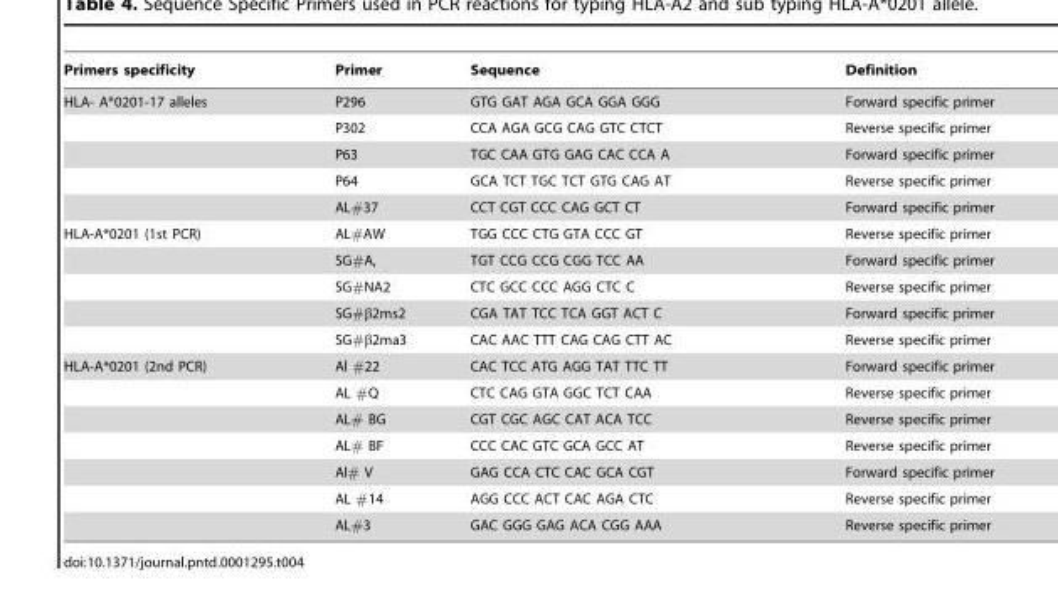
<table><thead><tr><td>Primers specificity</td><td>Primer</td><td>Sequence</td><td>Definition</td></tr></thead><tbody><tr><td rowspan="5">HLA- A*0201-17 alleles</td><td>P296</td><td>GTG GAT AGA GCA GGA GGG</td><td>Forward specific primer</td></tr><tr><td>P302</td><td>CCA AGA GCG CAG GTC CTCT</td><td>Reverse specific primer</td></tr><tr><td>P63</td><td>TGC CAA GTG GAG CAC CCA A</td><td>Forward specific primer</td></tr><tr><td>P64</td><td>GCA TCT TGC TCT GTG CAG AT</td><td>Reverse specific primer</td></tr><tr><td>AL#37</td><td>CCT CGT CCC CAG GCT CT</td><td>Forward specific primer</td></tr><tr><td rowspan="5">HLA-A*0201 (1st PCR)</td><td>AL#AW</td><td>TGG CCC CTG GTA CCC GT</td><td>Reverse specific primer</td></tr><tr><td>SG#A,</td><td>TGT CCG CCG CGG TCC AA</td><td>Forward specific primer</td></tr><tr><td>SG#NA2</td><td>CTC GCC CCC AGG CTC C</td><td>Reverse specific primer</td></tr><tr><td>SG#β2ms2</td><td>CGA TAT TCC TCA GGT ACT C</td><td>Forward specific primer</td></tr><tr><td>SG#β2ma3</td><td>CAC AAC TTT CAG CAG CTT AC</td><td>Reverse specific primer</td></tr><tr><td rowspan="7">HLA-A*0201 (2nd PCR)</td><td>Al #22</td><td>CAC TCC ATG AGG TAT TTC TT</td><td>Forward specific primer</td></tr><tr><td>AL #Q</td><td>CTC CAG GTA GGC TCT CAA</td><td>Reverse specific primer</td></tr><tr><td>AL# BG</td><td>CGT CGC AGC CAT ACA TCC</td><td>Reverse specific primer</td></tr><tr><td>AL# BF</td><td>CCC CAC GTC GCA GCC AT</td><td>Reverse specific primer</td></tr><tr><td>Al# V</td><td>GAG CCA CTC CAC GCA CGT</td><td>Forward specific primer</td></tr><tr><td>AL #14</td><td>AGG CCC ACT CAC AGA CTC</td><td>Reverse specific primer</td></tr><tr><td>AL#3</td><td>GAC GGG GAG ACA CGG AAA</td><td>Reverse specific primer</td></tr></tbody></table>